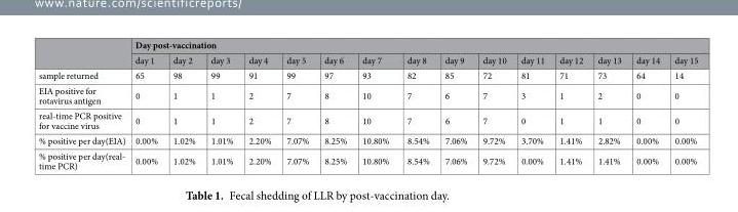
<table><thead><tr><td rowspan="2"></td><td colspan="15">Day post-vaccination</td></tr><tr><td>day 1</td><td>day 2</td><td>day 3</td><td>day 4</td><td>day 5</td><td>day 6</td><td>day 7</td><td>day 8</td><td>day 9</td><td>day 10</td><td>day 11</td><td>day 12</td><td>day 13</td><td>day 14</td><td>day 15</td></tr></thead><tbody><tr><td>sample returned</td><td>65</td><td>98</td><td>99</td><td>91</td><td>99</td><td>97</td><td>93</td><td>82</td><td>85</td><td>72</td><td>81</td><td>71</td><td>73</td><td>64</td><td>14</td></tr><tr><td>EIA positive for rotavirus antigen</td><td>0</td><td>1</td><td>1</td><td>2</td><td>7</td><td>8</td><td>10</td><td>7</td><td>6</td><td>7</td><td>3</td><td>1</td><td>2</td><td>0</td><td>0</td></tr><tr><td>real-time PCR positive for vaccine virus</td><td>0</td><td>1</td><td>1</td><td>2</td><td>7</td><td>8</td><td>10</td><td>7</td><td>6</td><td>7</td><td>0</td><td>1</td><td>1</td><td>0</td><td>0</td></tr><tr><td>% positive per day(EIA)</td><td>0.00%</td><td>1.02%</td><td>1.01%</td><td>2.20%</td><td>7.07%</td><td>8.25%</td><td>10.80%</td><td>8.54%</td><td>7.06%</td><td>9.72%</td><td>3.70%</td><td>1.41%</td><td>2.82%</td><td>0.00%</td><td>0.00%</td></tr><tr><td>% positive per day(real- time PCR)</td><td>0.00%</td><td>1.02%</td><td>1.01%</td><td>2.20%</td><td>7.07%</td><td>8.25%</td><td>10.80%</td><td>8.54%</td><td>7.06%</td><td>9.72%</td><td>0.00%</td><td>1.41%</td><td>1.41%</td><td>0.00%</td><td>0.00%</td></tr></tbody></table>